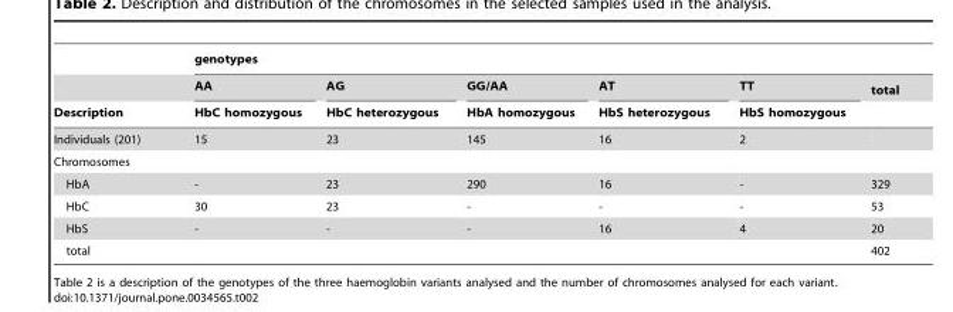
<table><thead><tr><td rowspan="3">Description</td><td colspan="6">genotypes</td></tr><tr><td rowspan="2">AA HbC homozygous</td><td rowspan="2">AG HbC heterozygous</td><td rowspan="2">GG/AA HbA homozygous</td><td rowspan="2">AT HbS heterozygous</td><td rowspan="2">TT HbS homozygous</td><td rowspan="2">total</td></tr><tr></tr></thead><tbody><tr><td>Individuals (201)</td><td>15</td><td>23</td><td>145</td><td>16</td><td>2</td><td></td></tr><tr><td colspan="7">Chromosomes</td></tr><tr><td>HbA</td><td>-</td><td>23</td><td>290</td><td>16</td><td>-</td><td>329</td></tr><tr><td>HbC</td><td>30</td><td>23</td><td>-</td><td>-</td><td>-</td><td>53</td></tr><tr><td>HbS</td><td>-</td><td>-</td><td>-</td><td>16</td><td>4</td><td>20</td></tr><tr><td>total</td><td></td><td></td><td></td><td></td><td></td><td>402</td></tr></tbody></table>